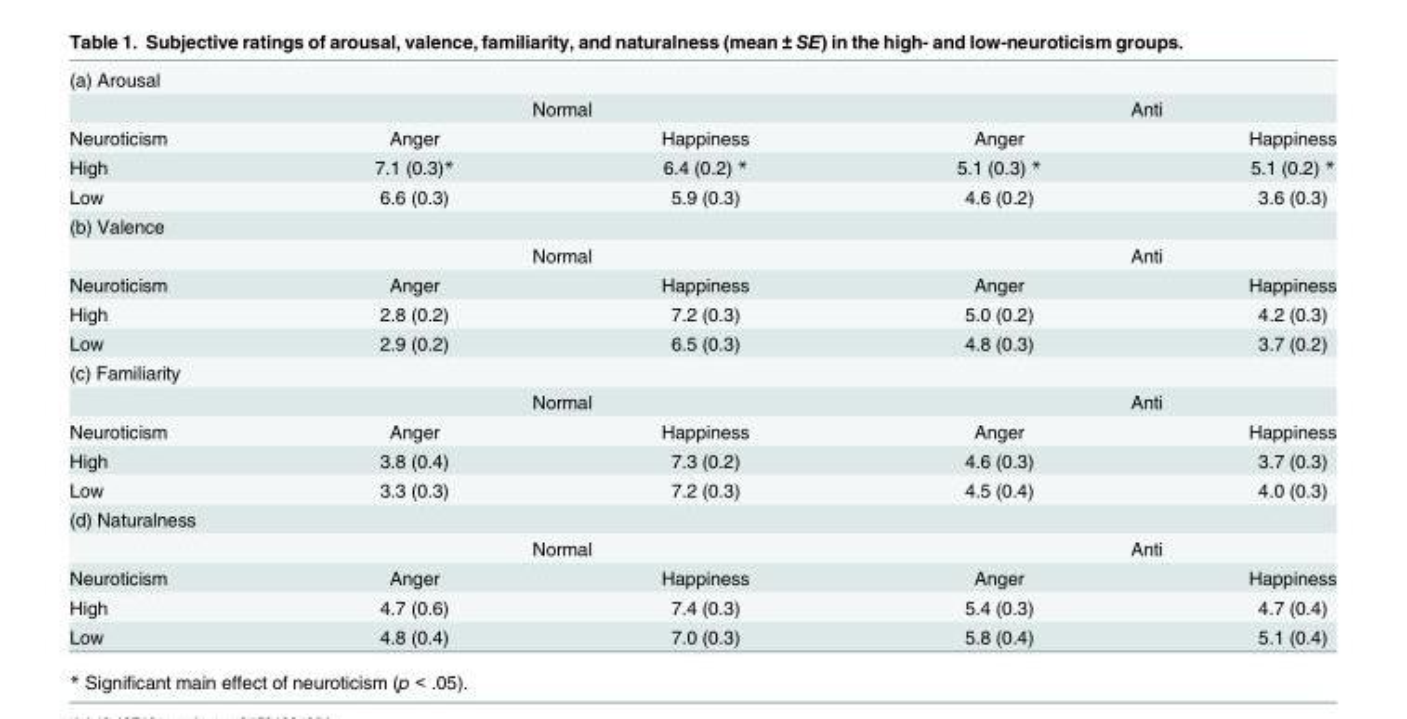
<table><tbody><tr><td colspan="5">(a) Arousal</td></tr><tr><td></td><td colspan="2">Normal</td><td colspan="2">Anti</td></tr><tr><td>Neuroticism</td><td>Anger</td><td>Happiness</td><td>Anger</td><td>Happiness</td></tr><tr><td>High</td><td>7.1 (0.3)*</td><td>6.4 (0.2) *</td><td>5.1 (0.3) *</td><td>5.1 (0.2) *</td></tr><tr><td>Low</td><td>6.6 (0.3)</td><td>5.9 (0.3)</td><td>4.6 (0.2)</td><td>3.6 (0.3)</td></tr><tr><td colspan="5">(b) Valence</td></tr><tr><td></td><td colspan="2">Normal</td><td colspan="2">Anti</td></tr><tr><td>Neuroticism</td><td>Anger</td><td>Happiness</td><td>Anger</td><td>Happiness</td></tr><tr><td>High</td><td>2.8 (0.2)</td><td>7.2 (0.3)</td><td>5.0 (0.2)</td><td>4.2 (0.3)</td></tr><tr><td>Low</td><td>2.9 (0.2)</td><td>6.5 (0.3)</td><td>4.8 (0.3)</td><td>3.7 (0.2)</td></tr><tr><td colspan="5">(c) Familiarity</td></tr><tr><td></td><td colspan="2">Normal</td><td colspan="2">Anti</td></tr><tr><td>Neuroticism</td><td>Anger</td><td>Happiness</td><td>Anger</td><td>Happiness</td></tr><tr><td>High</td><td>3.8 (0.4)</td><td>7.3 (0.2)</td><td>4.6 (0.3)</td><td>3.7 (0.3)</td></tr><tr><td>Low</td><td>3.3 (0.3)</td><td>7.2 (0.3)</td><td>4.5 (0.4)</td><td>4.0 (0.3)</td></tr><tr><td colspan="5">(d) Naturalness</td></tr><tr><td></td><td colspan="2">Normal</td><td colspan="2">Anti</td></tr><tr><td>Neuroticism</td><td>Anger</td><td>Happiness</td><td>Anger</td><td>Happiness</td></tr><tr><td>High</td><td>4.7 (0.6)</td><td>7.4 (0.3)</td><td>5.4 (0.3)</td><td>4.7 (0.4)</td></tr><tr><td>Low</td><td>4.8 (0.4)</td><td>7.0 (0.3)</td><td>5.8 (0.4)</td><td>5.1 (0.4)</td></tr></tbody></table>